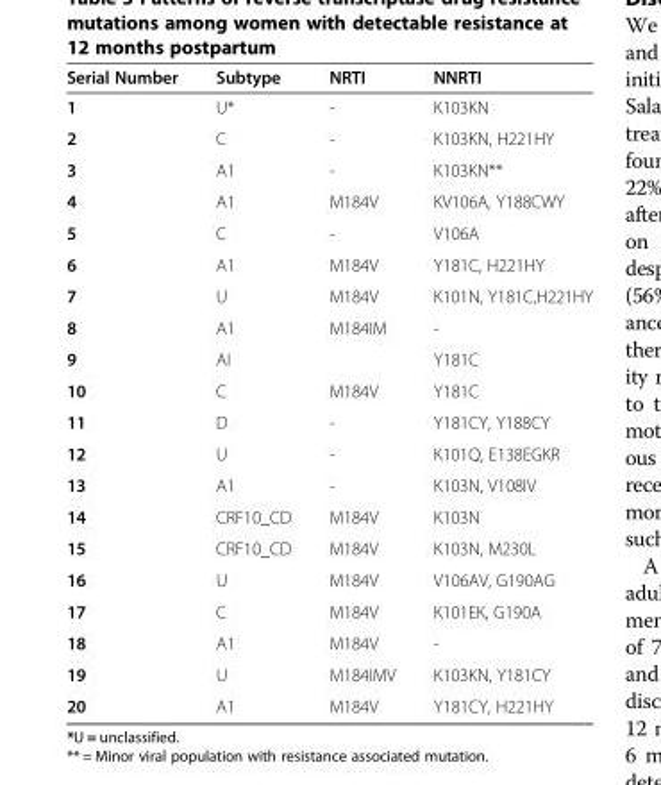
<table><thead><tr><td>Serial Number</td><td>Subtype</td><td>NRTI</td><td>NNRTI</td></tr></thead><tbody><tr><td>1</td><td>U*</td><td>-</td><td>K103KN</td></tr><tr><td>2</td><td>C</td><td>-</td><td>K103KN, H221HY</td></tr><tr><td>3</td><td>A1</td><td>-</td><td>K103KN**</td></tr><tr><td>4</td><td>A1</td><td>M184V</td><td>KV106A, Y188CWY</td></tr><tr><td>5</td><td>C</td><td>-</td><td>V106A</td></tr><tr><td>6</td><td>A1</td><td>M184V</td><td>Y181C, H221HY</td></tr><tr><td>7</td><td>U</td><td>M184V</td><td>K101N, Y181C,H221HY</td></tr><tr><td>8</td><td>A1</td><td>M184IM</td><td>-</td></tr><tr><td>9</td><td>AI</td><td></td><td>Y181C</td></tr><tr><td>10</td><td>C</td><td>M184V</td><td>Y181C</td></tr><tr><td>11</td><td>D</td><td>-</td><td>Y181CY, Y188CY</td></tr><tr><td>12</td><td>U</td><td>-</td><td>K101Q, E138EGKR</td></tr><tr><td>13</td><td>A1</td><td>-</td><td>K103N, V108IV</td></tr><tr><td>14</td><td>CRF10_CD</td><td>M184V</td><td>K103N</td></tr><tr><td>15</td><td>CRF10_CD</td><td>M184V</td><td>K103N, M230L</td></tr><tr><td>16</td><td>U</td><td>M184V</td><td>V106AV, G190AG</td></tr><tr><td>17</td><td>C</td><td>M184V</td><td>K101EK, G190A</td></tr><tr><td>18</td><td>A1</td><td>M184V</td><td>-</td></tr><tr><td>19</td><td>U</td><td>M184IMV</td><td>K103KN, Y181CY</td></tr><tr><td>20</td><td>A1</td><td>M184V</td><td>Y181CY, H221HY</td></tr></tbody></table>